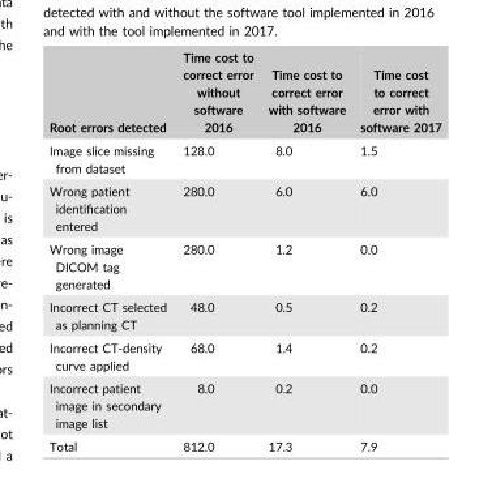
<table><thead><tr><td>Root errors detected</td><td>Time cost to correct error without software 2016</td><td>Time cost to correct error with software 2016</td><td>Time cost to correct error with software 2017</td></tr></thead><tbody><tr><td>Image slice missing from dataset</td><td>128.0</td><td>8.0</td><td>1.5</td></tr><tr><td>Wrong patient identification entered</td><td>280.0</td><td>6.0</td><td>6.0</td></tr><tr><td>Wrong image DICOM tag generated</td><td>280.0</td><td>1.2</td><td>0.0</td></tr><tr><td>Incorrect CT selected as planning CT</td><td>48.0</td><td>0.5</td><td>0.2</td></tr><tr><td>Incorrect CT-density curve applied</td><td>68.0</td><td>1.4</td><td>0.2</td></tr><tr><td>Incorrect patient image in secondary image list</td><td>8.0</td><td>0.2</td><td>0.0</td></tr><tr><td>Total</td><td>812.0</td><td>17.3</td><td>7.9</td></tr></tbody></table>